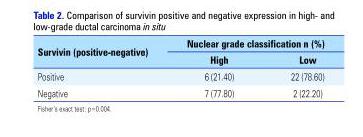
<table><thead><tr><td rowspan="2">Survivin (positive-negative)</td><td colspan="2">Nuclear grade classification n (%)</td></tr><tr><td>High</td><td>Low</td></tr></thead><tbody><tr><td>Positive</td><td>6 (21.40)</td><td>22 (78.60)</td></tr><tr><td>Negative</td><td>7 (77.80)</td><td>2 (22.20)</td></tr></tbody></table>